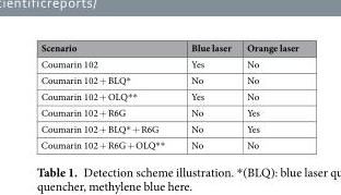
<table><thead><tr><td>Scenario</td><td>Blue laser</td><td>Orange laser</td></tr></thead><tbody><tr><td>Coumarin 102</td><td>Yes</td><td>No</td></tr><tr><td>Coumarin 102 + BLQ*</td><td>No</td><td>No</td></tr><tr><td>Coumarin 102 + OLQ**</td><td>Yes</td><td>No</td></tr><tr><td>Coumarin 102 + R6G</td><td>No</td><td>Yes</td></tr><tr><td>Coumarin 102 + BLQ* + R6G</td><td>No</td><td>Yes</td></tr><tr><td>Coumarin 102 + R6G + OLQ**</td><td>No</td><td>No</td></tr></tbody></table>